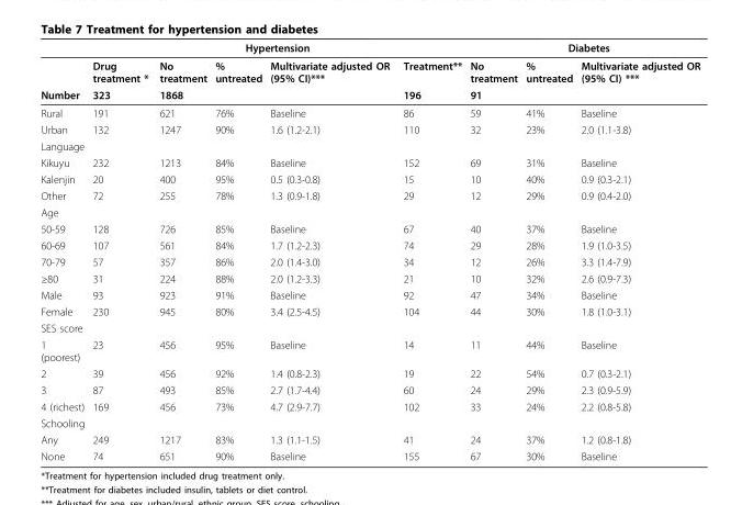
<table><thead><tr><td rowspan="3">Number</td><td colspan="5">Hypertension</td><td colspan="3">Diabetes</td></tr><tr><td rowspan="2">Drug treatment * 323</td><td rowspan="2">No treatment 1868</td><td rowspan="2">% untreated</td><td rowspan="2">Multivariate adjusted OR (95% CI)***</td><td rowspan="2">Treatment** 196</td><td rowspan="2">No treatment 91</td><td rowspan="2">% untreated</td><td rowspan="2">Multivariate adjusted OR (95% CI) ***</td></tr><tr></tr></thead><tbody><tr><td>Rural</td><td>191</td><td>621</td><td>76%</td><td>Baseline</td><td>86</td><td>59</td><td>41%</td><td>Baseline</td></tr><tr><td>Urban</td><td>132</td><td>1247</td><td>90%</td><td>1.6 (1.2-2.1)</td><td>110</td><td>32</td><td>23%</td><td>2.0 (1.1-3.8)</td></tr><tr><td colspan="9">Language</td></tr><tr><td>Kikuyu</td><td>232</td><td>1213</td><td>84%</td><td>Baseline</td><td>152</td><td>69</td><td>31%</td><td>Baseline</td></tr><tr><td>Kalenjin</td><td>20</td><td>400</td><td>95%</td><td>0.5 (0.3-0.8)</td><td>15</td><td>10</td><td>40%</td><td>0.9 (0.3-2.1)</td></tr><tr><td>Other</td><td>72</td><td>255</td><td>78%</td><td>1.3 (0.9-1.8)</td><td>29</td><td>12</td><td>29%</td><td>0.9 (0.4-2.0)</td></tr><tr><td colspan="9">Age</td></tr><tr><td>50-59</td><td>128</td><td>726</td><td>85%</td><td>Baseline</td><td>67</td><td>40</td><td>37%</td><td>Baseline</td></tr><tr><td>60-69</td><td>107</td><td>561</td><td>84%</td><td>1.7 (1.2-2.3)</td><td>74</td><td>29</td><td>28%</td><td>1.9 (1.0-3.5)</td></tr><tr><td>70-79</td><td>57</td><td>357</td><td>86%</td><td>2.0 (1.4-3.0)</td><td>34</td><td>12</td><td>26%</td><td>3.3 (1.4-7.9)</td></tr><tr><td>≥80</td><td>31</td><td>224</td><td>88%</td><td>2.0 (1.2-3.3)</td><td>21</td><td>10</td><td>32%</td><td>2.6 (0.9-7.3)</td></tr><tr><td>Male</td><td>93</td><td>923</td><td>91%</td><td>Baseline</td><td>92</td><td>47</td><td>34%</td><td>Baseline</td></tr><tr><td>Female</td><td>230</td><td>945</td><td>80%</td><td>3.4 (2.5-4.5)</td><td>104</td><td>44</td><td>30%</td><td>1.8 (1.0-3.1)</td></tr><tr><td colspan="9">SES score</td></tr><tr><td>1 (poorest)</td><td>23</td><td>456</td><td>95%</td><td>Baseline</td><td>14</td><td>11</td><td>44%</td><td>Baseline</td></tr><tr><td>2</td><td>39</td><td>456</td><td>92%</td><td>1.4 (0.8-2.3)</td><td>19</td><td>22</td><td>54%</td><td>0.7 (0.3-2.1)</td></tr><tr><td>3</td><td>87</td><td>493</td><td>85%</td><td>2.7 (1.7-4.4)</td><td>60</td><td>24</td><td>29%</td><td>2.3 (0.9-5.9)</td></tr><tr><td>4 (richest)</td><td>169</td><td>456</td><td>73%</td><td>4.7 (2.9-7.7)</td><td>102</td><td>33</td><td>24%</td><td>2.2 (0.8-5.8)</td></tr><tr><td colspan="9">Schooling</td></tr><tr><td>Any</td><td>249</td><td>1217</td><td>83%</td><td>1.3 (1.1-1.5)</td><td>41</td><td>24</td><td>37%</td><td>1.2 (0.8-1.8)</td></tr><tr><td>None</td><td>74</td><td>651</td><td>90%</td><td>Baseline</td><td>155</td><td>67</td><td>30%</td><td>Baseline</td></tr></tbody></table>